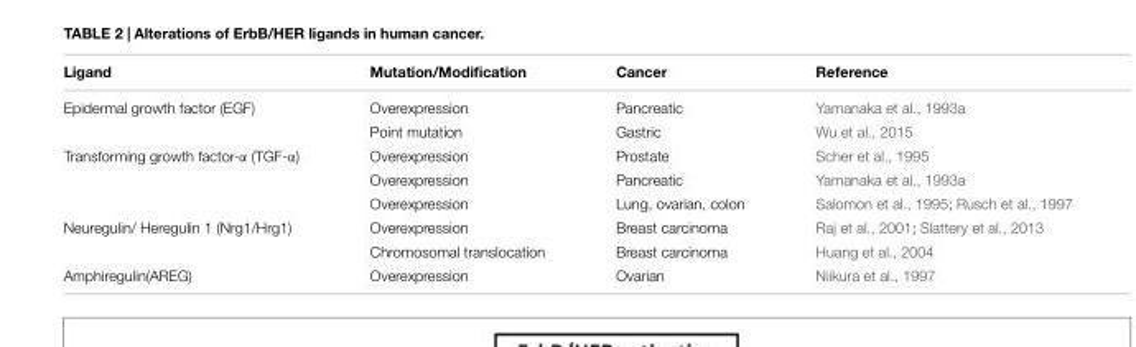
<table><thead><tr><td>Ligand</td><td>Mutation/Modification</td><td>Cancer</td><td>Reference</td></tr></thead><tbody><tr><td rowspan="2">Epidermal growth factor (EGF)</td><td>Overexpression</td><td>Pancreatic</td><td>Yamanaka et al., 1993a</td></tr><tr><td>Point mutation</td><td>Gastric</td><td>Wu et al., 2015</td></tr><tr><td rowspan="3">Transforming growth factor-α (TGF-α)</td><td>Overexpression</td><td>Prostate</td><td>Scher et al., 1995</td></tr><tr><td>Overexpression</td><td>Pancreatic</td><td>Yamanaka et al., 1993a</td></tr><tr><td>Overexpression</td><td>Lung, ovarian, colon</td><td>Salomon et al., 1995; Rusch et al., 1997</td></tr><tr><td rowspan="2">Neuregulin/ Heregulin 1 (Nrg1/Hrg1)</td><td>Overexpression</td><td>Breast carcinoma</td><td>Raj et al., 2001; Slattery et al., 2013</td></tr><tr><td>Chromosomal translocation</td><td>Breast carcinoma</td><td>Huang et al., 2004</td></tr><tr><td>Amphiregulin(AREG)</td><td>Overexpression</td><td>Ovarian</td><td>Niikura et al., 1997</td></tr></tbody></table>